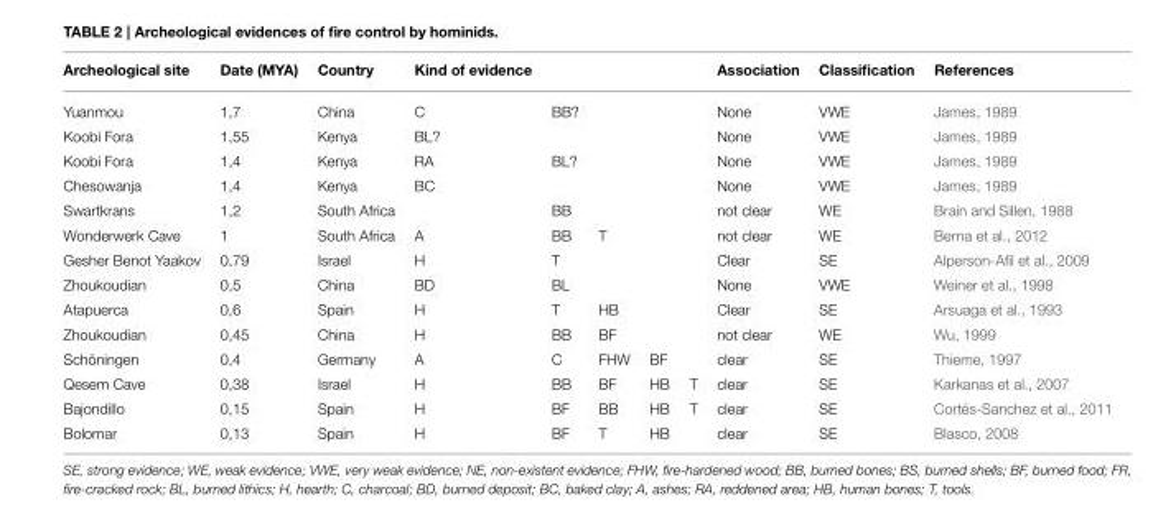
<table><thead><tr><td>Archeological site</td><td>Date (MYA)</td><td>Country</td><td>Kind of evidence</td><td></td><td></td><td></td><td></td><td>Association</td><td>Classification</td><td>References</td></tr></thead><tbody><tr><td>Yuanmou</td><td>1,7</td><td>China</td><td>C</td><td>BB?</td><td></td><td></td><td></td><td>None</td><td>VWE</td><td>James, 1989</td></tr><tr><td>Koobi Fora</td><td>1,55</td><td>Kenya</td><td>BL?</td><td></td><td></td><td></td><td></td><td>None</td><td>VWE</td><td>James, 1989</td></tr><tr><td>Koobi Fora</td><td>1,4</td><td>Kenya</td><td>RA</td><td>BL?</td><td></td><td></td><td></td><td>None</td><td>VWE</td><td>James, 1989</td></tr><tr><td>Chesowanja</td><td>1,4</td><td>Kenya</td><td>BC</td><td></td><td></td><td></td><td></td><td>None</td><td>VWE</td><td>James, 1989</td></tr><tr><td>Swartkrans</td><td>1,2</td><td>South Africa</td><td></td><td>BB</td><td></td><td></td><td></td><td>not clear</td><td>WE</td><td>Brain and Sillen, 1988</td></tr><tr><td>Wonderwerk Cave</td><td>1</td><td>South Africa</td><td>A</td><td>BB</td><td>T</td><td></td><td></td><td>not clear</td><td>WE</td><td>Berna et al., 2012</td></tr><tr><td>Gesher Benot Yaakov</td><td>0,79</td><td>Israel</td><td>H</td><td>T</td><td></td><td></td><td></td><td>Clear</td><td>SE</td><td>Alperson-Afil et al., 2009</td></tr><tr><td>Zhoukoudian</td><td>0,5</td><td>China</td><td>BD</td><td>BL</td><td></td><td></td><td></td><td>None</td><td>VWE</td><td>Weiner et al., 1998</td></tr><tr><td>Atapuerca</td><td>0,6</td><td>Spain</td><td>H</td><td>T</td><td>HB</td><td></td><td></td><td>Clear</td><td>SE</td><td>Arsuaga et al., 1993</td></tr><tr><td>Zhoukoudian</td><td>0,45</td><td>China</td><td>H</td><td>BB</td><td>BF</td><td></td><td></td><td>not clear</td><td>WE</td><td>Wu, 1999</td></tr><tr><td>Schöningen</td><td>0,4</td><td>Germany</td><td>A</td><td>C</td><td>FHW</td><td>BF</td><td></td><td>clear</td><td>SE</td><td>Thieme, 1997</td></tr><tr><td>Qesem Cave</td><td>0,38</td><td>Israel</td><td>H</td><td>BB</td><td>BF</td><td>HB</td><td>T</td><td>clear</td><td>SE</td><td>Karkanas et al., 2007</td></tr><tr><td>Bajondillo</td><td>0,15</td><td>Spain</td><td>H</td><td>BF</td><td>BB</td><td>HB</td><td>T</td><td>clear</td><td>SE</td><td>Cortés-Sanchez et al., 2011</td></tr><tr><td>Bolomar</td><td>0,13</td><td>Spain</td><td>H</td><td>BF</td><td>T</td><td>HB</td><td></td><td>clear</td><td>SE</td><td>Blasco, 2008</td></tr></tbody></table>